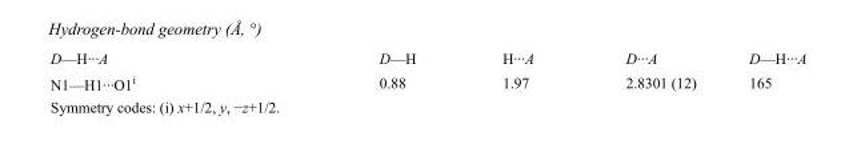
<table><tbody><tr><td>D—H···A</td><td>D—H</td><td>H···A</td><td>D···A</td><td>D—H···A</td></tr><tr><td>N1—H1···O1<sup>i</sup></td><td>0.88</td><td>1.97</td><td>2.8301 (12)</td><td>165</td></tr></tbody></table>